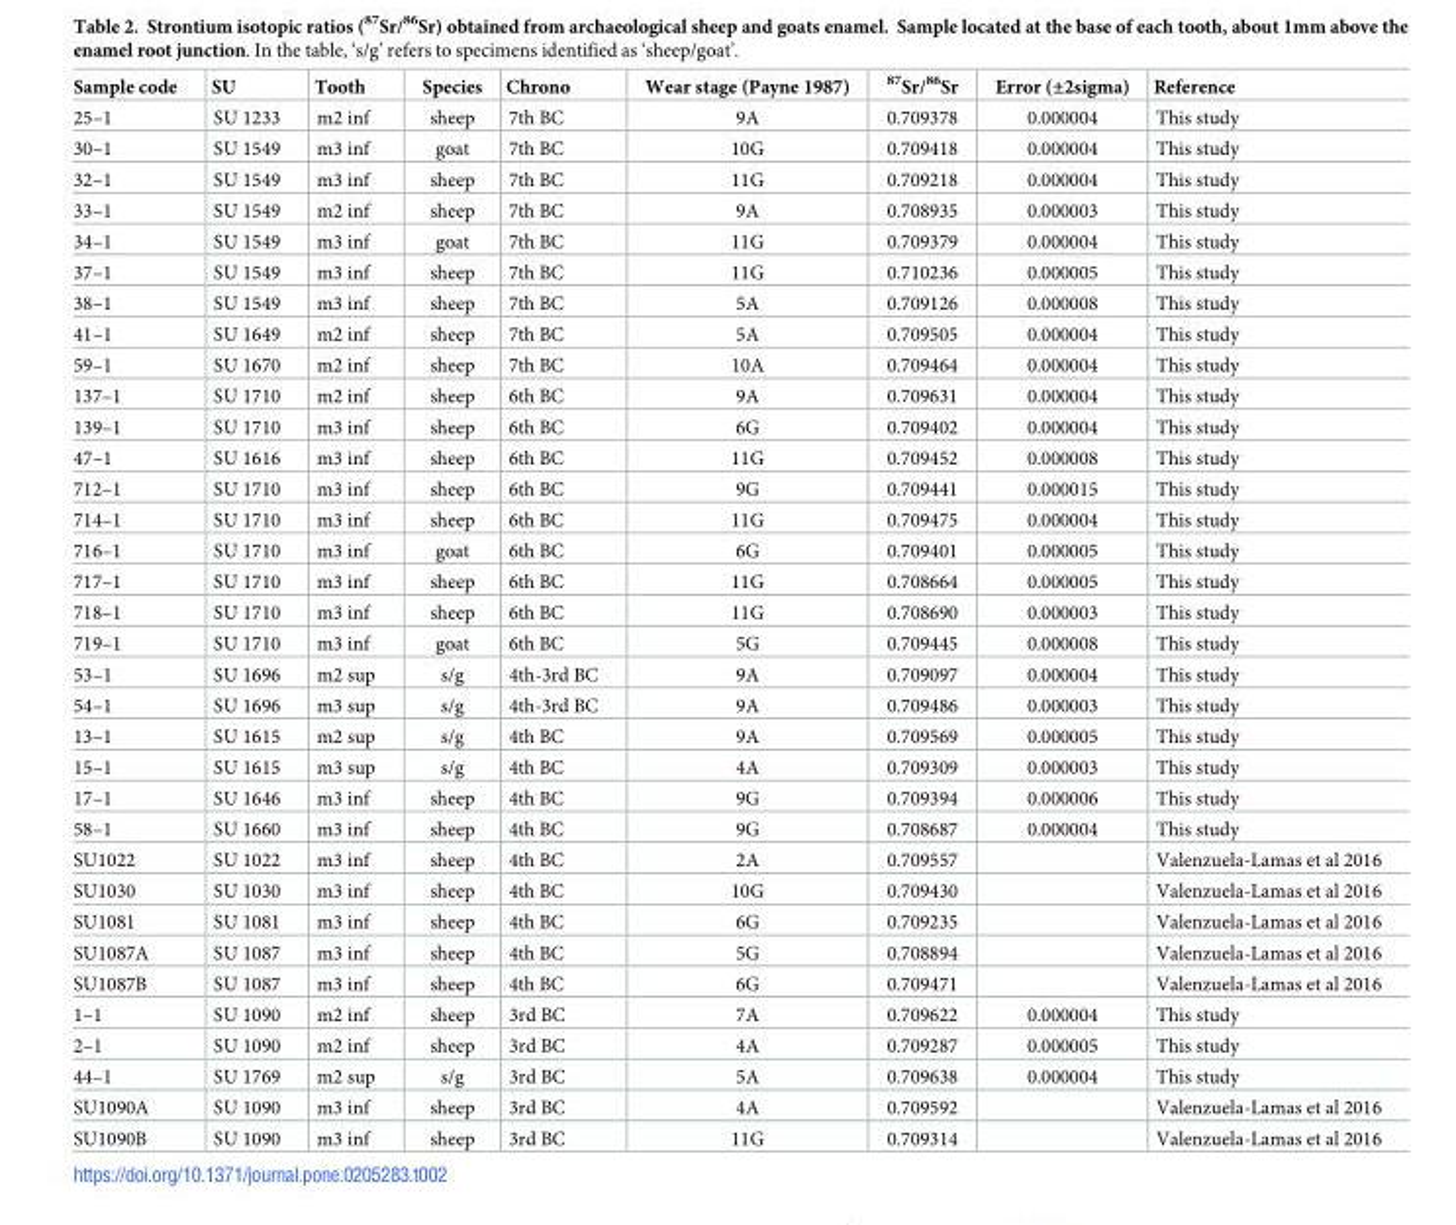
<table><thead><tr><td>Sample code</td><td>SU</td><td>Tooth</td><td>Species</td><td>Chrono</td><td>Wear stage (Payne 1987)</td><td><sup>87</sup>Sr/<sup>86</sup>Sr</td><td>Error (±2sigma)</td><td>Reference</td></tr></thead><tbody><tr><td>25–1</td><td>SU 1233</td><td>m2 inf</td><td>sheep</td><td>7th BC</td><td>9A</td><td>0.709378</td><td>0.000004</td><td>This study</td></tr><tr><td>30–1</td><td>SU 1549</td><td>m3 inf</td><td>goat</td><td>7th BC</td><td>10G</td><td>0.709418</td><td>0.000004</td><td>This study</td></tr><tr><td>32–1</td><td>SU 1549</td><td>m3 inf</td><td>sheep</td><td>7th BC</td><td>11G</td><td>0.709218</td><td>0.000004</td><td>This study</td></tr><tr><td>33–1</td><td>SU 1549</td><td>m2 inf</td><td>sheep</td><td>7th BC</td><td>9A</td><td>0.708935</td><td>0.000003</td><td>This study</td></tr><tr><td>34–1</td><td>SU 1549</td><td>m3 inf</td><td>goat</td><td>7th BC</td><td>11G</td><td>0.709379</td><td>0.000004</td><td>This study</td></tr><tr><td>37–1</td><td>SU 1549</td><td>m3 inf</td><td>sheep</td><td>7th BC</td><td>11G</td><td>0.710236</td><td>0.000005</td><td>This study</td></tr><tr><td>38–1</td><td>SU 1549</td><td>m3 inf</td><td>sheep</td><td>7th BC</td><td>5A</td><td>0.709126</td><td>0.000008</td><td>This study</td></tr><tr><td>41–1</td><td>SU 1649</td><td>m2 inf</td><td>sheep</td><td>7th BC</td><td>5A</td><td>0.709505</td><td>0.000004</td><td>This study</td></tr><tr><td>59–1</td><td>SU 1670</td><td>m2 inf</td><td>sheep</td><td>7th BC</td><td>10A</td><td>0.709464</td><td>0.000004</td><td>This study</td></tr><tr><td>137–1</td><td>SU 1710</td><td>m2 inf</td><td>sheep</td><td>6th BC</td><td>9A</td><td>0.709631</td><td>0.000004</td><td>This study</td></tr><tr><td>139–1</td><td>SU 1710</td><td>m3 inf</td><td>sheep</td><td>6th BC</td><td>6G</td><td>0.709402</td><td>0.000004</td><td>This study</td></tr><tr><td>47–1</td><td>SU 1616</td><td>m3 inf</td><td>sheep</td><td>6th BC</td><td>11G</td><td>0.709452</td><td>0.000008</td><td>This study</td></tr><tr><td>712–1</td><td>SU 1710</td><td>m3 inf</td><td>sheep</td><td>6th BC</td><td>9G</td><td>0.709441</td><td>0.000015</td><td>This study</td></tr><tr><td>714–1</td><td>SU 1710</td><td>m3 inf</td><td>sheep</td><td>6th BC</td><td>11G</td><td>0.709475</td><td>0.000004</td><td>This study</td></tr><tr><td>716–1</td><td>SU 1710</td><td>m3 inf</td><td>goat</td><td>6th BC</td><td>6G</td><td>0.709401</td><td>0.000005</td><td>This study</td></tr><tr><td>717–1</td><td>SU 1710</td><td>m3 inf</td><td>sheep</td><td>6th BC</td><td>11G</td><td>0.708664</td><td>0.000005</td><td>This study</td></tr><tr><td>718–1</td><td>SU 1710</td><td>m3 inf</td><td>sheep</td><td>6th BC</td><td>11G</td><td>0.708690</td><td>0.000003</td><td>This study</td></tr><tr><td>719–1</td><td>SU 1710</td><td>m3 inf</td><td>goat</td><td>6th BC</td><td>5G</td><td>0.709445</td><td>0.000008</td><td>This study</td></tr><tr><td>53–1</td><td>SU 1696</td><td>m2 sup</td><td>s/g</td><td>4th-3rd BC</td><td>9A</td><td>0.709097</td><td>0.000004</td><td>This study</td></tr><tr><td>54–1</td><td>SU 1696</td><td>m3 sup</td><td>s/g</td><td>4th-3rd BC</td><td>9A</td><td>0.709486</td><td>0.000003</td><td>This study</td></tr><tr><td>13–1</td><td>SU 1615</td><td>m2 sup</td><td>s/g</td><td>4th BC</td><td>9A</td><td>0.709569</td><td>0.000005</td><td>This study</td></tr><tr><td>15–1</td><td>SU 1615</td><td>m3 sup</td><td>s/g</td><td>4th BC</td><td>4A</td><td>0.709309</td><td>0.000003</td><td>This study</td></tr><tr><td>17–1</td><td>SU 1646</td><td>m3 inf</td><td>sheep</td><td>4th BC</td><td>9G</td><td>0.709394</td><td>0.000006</td><td>This study</td></tr><tr><td>58–1</td><td>SU 1660</td><td>m3 inf</td><td>sheep</td><td>4th BC</td><td>9G</td><td>0.708687</td><td>0.000004</td><td>This study</td></tr><tr><td>SU1022</td><td>SU 1022</td><td>m3 inf</td><td>sheep</td><td>4th BC</td><td>2A</td><td>0.709557</td><td></td><td>Valenzuela-Lamas et al 2016</td></tr><tr><td>SU1030</td><td>SU 1030</td><td>m3 inf</td><td>sheep</td><td>4th BC</td><td>10G</td><td>0.709430</td><td></td><td>Valenzuela-Lamas et al 2016</td></tr><tr><td>SU1081</td><td>SU 1081</td><td>m3 inf</td><td>sheep</td><td>4th BC</td><td>6G</td><td>0.709235</td><td></td><td>Valenzuela-Lamas et al 2016</td></tr><tr><td>SU1087A</td><td>SU 1087</td><td>m3 inf</td><td>sheep</td><td>4th BC</td><td>5G</td><td>0.708894</td><td></td><td>Valenzuela-Lamas et al 2016</td></tr><tr><td>SU1087B</td><td>SU 1087</td><td>m3 inf</td><td>sheep</td><td>4th BC</td><td>6G</td><td>0.709471</td><td></td><td>Valenzuela-Lamas et al 2016</td></tr><tr><td>1–1</td><td>SU 1090</td><td>m2 inf</td><td>sheep</td><td>3rd BC</td><td>7A</td><td>0.709622</td><td>0.000004</td><td>This study</td></tr><tr><td>2–1</td><td>SU 1090</td><td>m2 inf</td><td>sheep</td><td>3rd BC</td><td>4A</td><td>0.709287</td><td>0.000005</td><td>This study</td></tr><tr><td>44–1</td><td>SU 1769</td><td>m2 sup</td><td>s/g</td><td>3rd BC</td><td>5A</td><td>0.709638</td><td>0.000004</td><td>This study</td></tr><tr><td>SU1090A</td><td>SU 1090</td><td>m3 inf</td><td>sheep</td><td>3rd BC</td><td>4A</td><td>0.709592</td><td></td><td>Valenzuela-Lamas et al 2016</td></tr><tr><td>SU1090B</td><td>SU 1090</td><td>m3 inf</td><td>sheep</td><td>3rd BC</td><td>11G</td><td>0.709314</td><td></td><td>Valenzuela-Lamas et al 2016</td></tr></tbody></table>